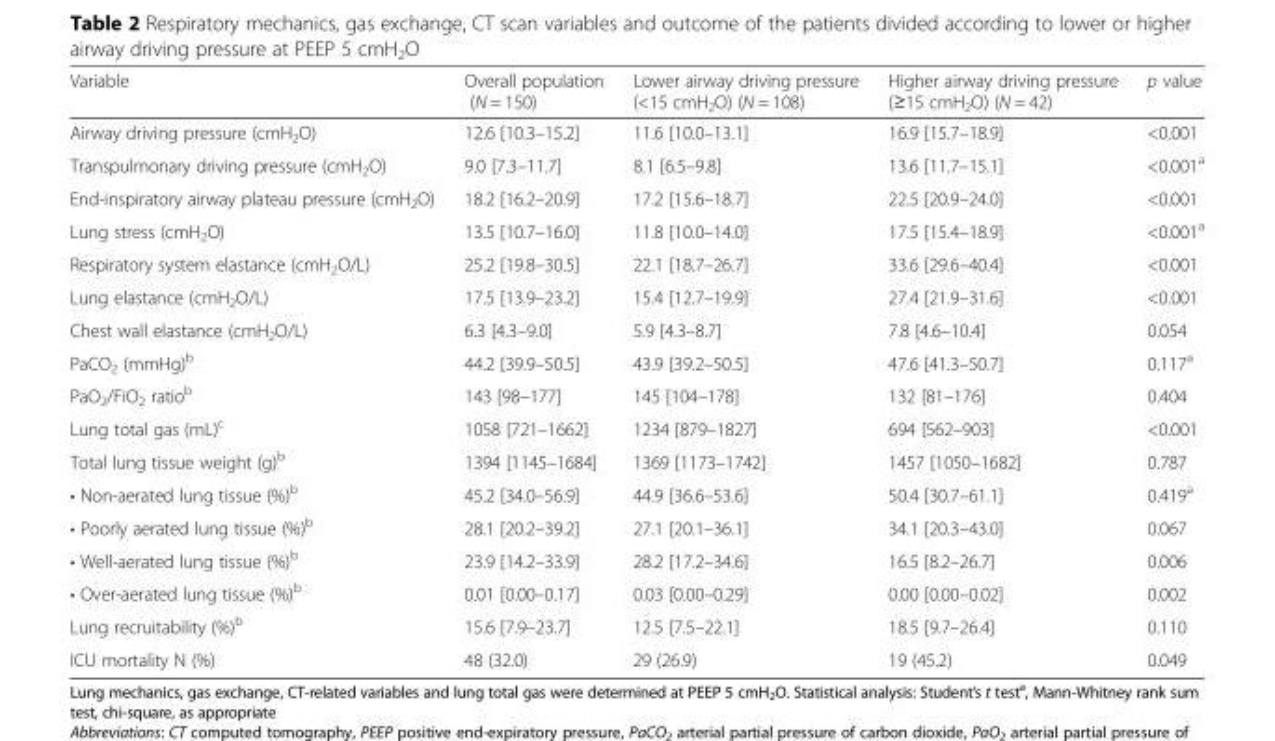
<table><thead><tr><td>Variable</td><td>Overall population (N = 150)</td><td>Lower airway driving pressure (&lt;15 cmH<sub>2</sub>O) (N = 108)</td><td>Higher airway driving pressure (≥15 cmH<sub>2</sub>O) (N = 42)</td><td>p value</td></tr></thead><tbody><tr><td>Airway driving pressure (cmH<sub>2</sub>O)</td><td>12.6 [10.3–15.2]</td><td>11.6 [10.0–13.1]</td><td>16.9 [15.7–18.9]</td><td>&lt;0.001</td></tr><tr><td>Transpulmonary driving pressure (cmH<sub>2</sub>O)</td><td>9.0 [7.3–11.7]</td><td>8.1 [6.5–9.8]</td><td>13.6 [11.7–15.1]</td><td>&lt;0.001<sup>a</sup></td></tr><tr><td>End-inspiratory airway plateau pressure (cmH<sub>2</sub>O)</td><td>18.2 [16.2–20.9]</td><td>17.2 [15.6–18.7]</td><td>22.5 [20.9–24.0]</td><td>&lt;0.001</td></tr><tr><td>Lung stress (cmH<sub>2</sub>O)</td><td>13.5 [10.7–16.0]</td><td>11.8 [10.0–14.0]</td><td>17.5 [15.4–18.9]</td><td>&lt;0.001<sup>a</sup></td></tr><tr><td>Respiratory system elastance (cmH<sub>2</sub>O/L)</td><td>25.2 [19.8–30.5]</td><td>22.1 [18.7–26.7]</td><td>33.6 [29.6–40.4]</td><td>&lt;0.001</td></tr><tr><td>Lung elastance (cmH<sub>2</sub>O/L)</td><td>17.5 [13.9–23.2]</td><td>15.4 [12.7–19.9]</td><td>27.4 [21.9–31.6]</td><td>&lt;0.001</td></tr><tr><td>Chest wall elastance (cmH<sub>2</sub>O/L)</td><td>6.3 [4.3–9.0]</td><td>5.9 [4.3–8.7]</td><td>7.8 [4.6–10.4]</td><td>0.054</td></tr><tr><td>PaCO<sub>2</sub> (mmHg)<sup>b</sup></td><td>44.2 [39.9–50.5]</td><td>43.9 [39.2–50.5]</td><td>47.6 [41.3–50.7]</td><td>0.117<sup>a</sup></td></tr><tr><td>PaO<sub>2</sub>/FiO<sub>2</sub> ratio<sup>b</sup></td><td>143 [98–177]</td><td>145 [104–178]</td><td>132 [81–176]</td><td>0.404</td></tr><tr><td>Lung total gas (mL)<sup>c</sup></td><td>1058 [721–1662]</td><td>1234 [879–1827]</td><td>694 [562–903]</td><td>&lt;0.001</td></tr><tr><td>Total lung tissue weight (g)<sup>b</sup></td><td>1394 [1145–1684]</td><td>1369 [1173–1742]</td><td>1457 [1050–1682]</td><td>0.787</td></tr><tr><td>• Non-aerated lung tissue (%)<sup>b</sup></td><td>45.2 [34.0–56.9]</td><td>44.9 [36.6–53.6]</td><td>50.4 [30.7–61.1]</td><td>0.419<sup>a</sup></td></tr><tr><td>• Poorly aerated lung tissue (%)<sup>b</sup></td><td>28.1 [20.2–39.2]</td><td>27.1 [20.1–36.1]</td><td>34.1 [20.3–43.0]</td><td>0.067</td></tr><tr><td>• Well-aerated lung tissue (%)<sup>b</sup></td><td>23.9 [14.2–33.9]</td><td>28.2 [17.2–34.6]</td><td>16.5 [8.2–26.7]</td><td>0.006</td></tr><tr><td>• Over-aerated lung tissue (%)<sup>b</sup></td><td>0.01 [0.00–0.17]</td><td>0.03 [0.00–0.29]</td><td>0.00 [0.00–0.02]</td><td>0.002</td></tr><tr><td>Lung recruitability (%)<sup>b</sup></td><td>15.6 [7.9–23.7]</td><td>12.5 [7.5–22.1]</td><td>18.5 [9.7–26.4]</td><td>0.110</td></tr><tr><td>ICU mortality N (%)</td><td>48 (32.0)</td><td>29 (26.9)</td><td>19 (45.2)</td><td>0.049</td></tr></tbody></table>